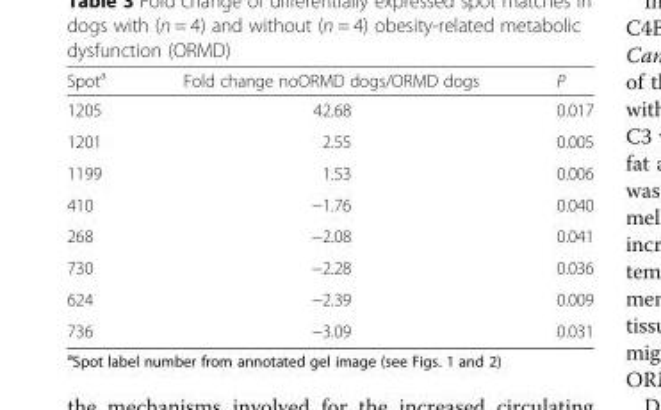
<table><thead><tr><td>Spot<sup>a</sup></td><td>Fold change noORMD dogs/ORMD dogs</td><td>P</td></tr></thead><tbody><tr><td>1205</td><td>42.68</td><td>0.017</td></tr><tr><td>1201</td><td>2.55</td><td>0.005</td></tr><tr><td>1199</td><td>1.53</td><td>0.006</td></tr><tr><td>410</td><td>−1.76</td><td>0.040</td></tr><tr><td>268</td><td>−2.08</td><td>0.041</td></tr><tr><td>730</td><td>−2.28</td><td>0.036</td></tr><tr><td>624</td><td>−2.39</td><td>0.009</td></tr><tr><td>736</td><td>−3.09</td><td>0.031</td></tr></tbody></table>